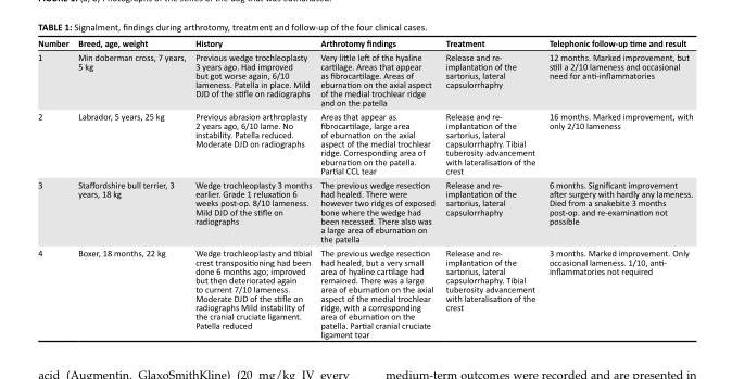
<table><thead><tr><td>Number</td><td>Breed, age, weight</td><td>History</td><td>Arthrotomy findings</td><td>Treatment</td><td>Telephonic follow-up time and result</td></tr></thead><tbody><tr><td>1</td><td>Min doberman cross, 7 years, 5 kg</td><td>Previous wedge trochleoplasty 3 years ago. Had improved but got worse again, 6/10 lameness. Patella in place. Mild DJD of the stifle on radiographs</td><td>Very little left of the hyaline cartilage. Areas that appear as fibrocartilage. Areas of eburnation on the axial aspect of the medial trochlear ridge and on the patella</td><td>Release and re- implantation of the sartorius, lateral capsulorrhaphy</td><td>12 months. Marked improvement, but still a 2/10 lameness and occasional need for anti-inflammatories</td></tr><tr><td>2</td><td>Labrador, 5 years, 25 kg</td><td>Previous abrasion arthroplasty 2 years ago, 6/10 lame. No instability. Patella reduced. Moderate DJD on radiographs</td><td>Areas that appear as fibrocartilage, large area of eburnation on the axial aspect of the medial trochlear ridge. Corresponding area of eburnation on the patella. Partial CCL tear</td><td>Release and re- implantation of the sartorius, lateral capsulorrhaphy. Tibial tuberosity advancement with lateralisation of the crest</td><td>16 months. Marked improvement, with only 2/10 lameness</td></tr><tr><td>3</td><td>Staffordshire bull terrier, 3 years, 18 kg</td><td>Wedge trochleoplasty 3 months earlier. Grade 1 reluxation 6 weeks post-op. 8/10 lameness. Mild DJD of the stifle on radiographs</td><td>The previous wedge resection had healed. There were however two ridges of exposed bone where the wedge had been recessed. There also was a large area of eburnation on the patella</td><td>Release and re- implantation of the sartorius, lateral capsulorrhaphy</td><td>6 months. Significant improvement after surgery with hardly any lameness. Died from a snakebite 3 months post-op. and re-examination not possible</td></tr><tr><td>4</td><td>Boxer, 18 months, 22 kg</td><td>Wedge trochleoplasty and tibial crest transpositioning had been done 6 months ago; improved but then deteriorated again to current 7/10 lameness. Moderate DJD of the stifle on radiographs Mild instability of the cranial cruciate ligament. Patella reduced</td><td>The previous wedge resection had healed, but a very small area of hyaline cartilage had remained. There was a large area of eburnation on the axial aspect of the medial trochlear ridge, with a corresponding area of eburnation on the patella. Partial cranial cruciate ligament tear</td><td>Release and re- implantation of the sartorius, lateral capsulorrhaphy. Tibial tuberosity advancement with lateralisation of the crest</td><td>3 months. Marked improvement. Only occasional lameness. 1/10, anti- inflammatories not required</td></tr></tbody></table>